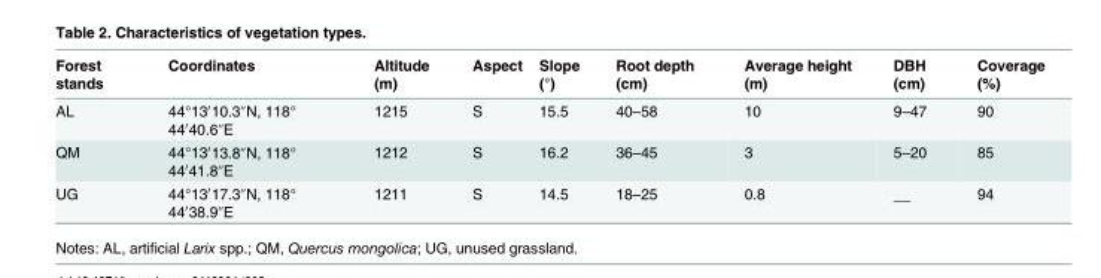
<table><thead><tr><td>Forest stands</td><td>Coordinates</td><td>Altitude (m)</td><td>Aspect</td><td>Slope (°)</td><td>Root depth (cm)</td><td>Average height (m)</td><td>DBH (cm)</td><td>Coverage (%)</td></tr></thead><tbody><tr><td>AL</td><td>44°13′10.3″N, 118° 44′40.6″E</td><td>1215</td><td>S</td><td>15.5</td><td>40–58</td><td>10</td><td>9–47</td><td>90</td></tr><tr><td>QM</td><td>44°13′13.8″N, 118° 44′41.8″E</td><td>1212</td><td>S</td><td>16.2</td><td>36–45</td><td>3</td><td>5–20</td><td>85</td></tr><tr><td>UG</td><td>44°13′17.3″N, 118° 44′38.9″E</td><td>1211</td><td>S</td><td>14.5</td><td>18–25</td><td>0.8</td><td>__</td><td>94</td></tr></tbody></table>